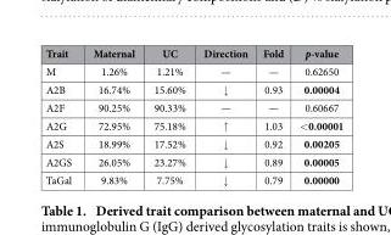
<table><thead><tr><td>Trait</td><td>Maternal</td><td>UC</td><td>Direction</td><td>Fold</td><td>p-value</td></tr></thead><tbody><tr><td>M</td><td>1.26%</td><td>1.21%</td><td>—</td><td>—</td><td>0.62650</td></tr><tr><td>A2B</td><td>16.74%</td><td>15.60%</td><td>↓</td><td>0.93</td><td>0.00004</td></tr><tr><td>A2F</td><td>90.25%</td><td>90.33%</td><td>—</td><td>—</td><td>0.60667</td></tr><tr><td>A2G</td><td>72.95%</td><td>75.18%</td><td>↑</td><td>1.03</td><td>&lt; 0.00001</td></tr><tr><td>A2S</td><td>18.99%</td><td>17.52%</td><td>↓</td><td>0.92</td><td>0.00205</td></tr><tr><td>A2GS</td><td>26.05%</td><td>23.27%</td><td>↓</td><td>0.89</td><td>0.00005</td></tr><tr><td>TaGal</td><td>9.83%</td><td>7.75%</td><td>↓</td><td>0.79</td><td>0.00000</td></tr></tbody></table>